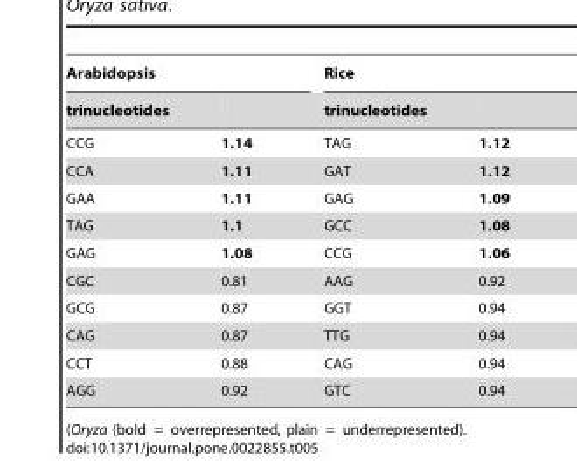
<table><thead><tr><td colspan="2">Arabidopsis</td><td colspan="2">Rice</td></tr><tr><td>trinucleotides</td><td></td><td>trinucleotides</td><td></td></tr></thead><tbody><tr><td>CCG</td><td>1.14</td><td>TAG</td><td>1.12</td></tr><tr><td>CCA</td><td>1.11</td><td>GAT</td><td>1.12</td></tr><tr><td>GAA</td><td>1.11</td><td>GAG</td><td>1.09</td></tr><tr><td>TAG</td><td>1.1</td><td>GCC</td><td>1.08</td></tr><tr><td>GAG</td><td>1.08</td><td>CCG</td><td>1.06</td></tr><tr><td>CGC</td><td>0.81</td><td>AAG</td><td>0.92</td></tr><tr><td>GCG</td><td>0.87</td><td>GGT</td><td>0.94</td></tr><tr><td>CAG</td><td>0.87</td><td>TTG</td><td>0.94</td></tr><tr><td>CCT</td><td>0.88</td><td>CAG</td><td>0.94</td></tr><tr><td>AGG</td><td>0.92</td><td>GTC</td><td>0.94</td></tr></tbody></table>